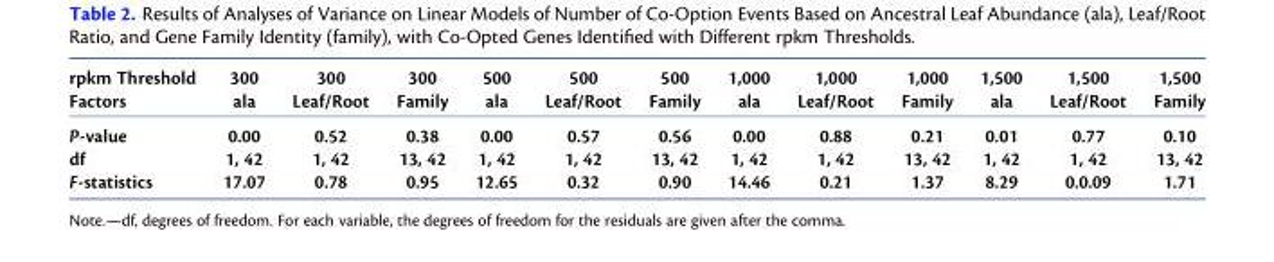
<table><thead><tr><td rowspan="2">rpkm Threshold Factors</td><td rowspan="2">300 ala</td><td rowspan="2">300 Leaf/Root</td><td rowspan="2">300 Family</td><td rowspan="2">500 ala</td><td rowspan="2">500 Leaf/Root</td><td rowspan="2">500 Family</td><td rowspan="2">1,000 ala</td><td rowspan="2">1,000 Leaf/Root</td><td rowspan="2">1,000 Family</td><td rowspan="2">1,500 ala</td><td rowspan="2">1,500 Leaf/Root</td><td rowspan="2">1,500 Family</td></tr><tr></tr></thead><tbody><tr><td>P-value</td><td>0.00</td><td>0.52</td><td>0.38</td><td>0.00</td><td>0.57</td><td>0.56</td><td>0.00</td><td>0.88</td><td>0.21</td><td>0.01</td><td>0.77</td><td>0.10</td></tr><tr><td>df</td><td>1, 42</td><td>1, 42</td><td>13, 42</td><td>1, 42</td><td>1, 42</td><td>13, 42</td><td>1, 42</td><td>1, 42</td><td>13, 42</td><td>1, 42</td><td>1, 42</td><td>13, 42</td></tr><tr><td>F-statistics</td><td>17.07</td><td>0.78</td><td>0.95</td><td>12.65</td><td>0.32</td><td>0.90</td><td>14.46</td><td>0.21</td><td>1.37</td><td>8.29</td><td>0.0.09</td><td>1.71</td></tr></tbody></table>